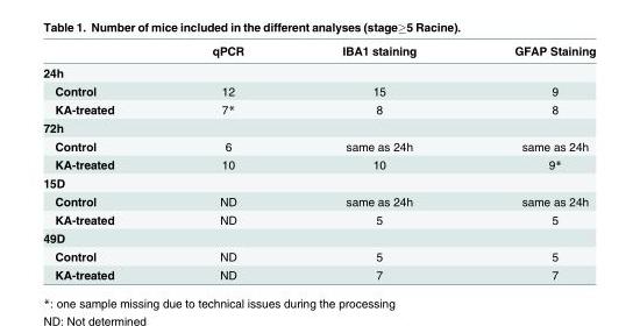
<table><thead><tr><td></td><td>qPCR</td><td>IBA1 staining</td><td>GFAP Staining</td></tr></thead><tbody><tr><td colspan="4">24h</td></tr><tr><td>Control</td><td>12</td><td>15</td><td>9</td></tr><tr><td>KA-treated</td><td>7*</td><td>8</td><td>8</td></tr><tr><td colspan="4">72h</td></tr><tr><td>Control</td><td>6</td><td>same as 24h</td><td>same as 24h</td></tr><tr><td>KA-treated</td><td>10</td><td>10</td><td>9*</td></tr><tr><td colspan="4">15D</td></tr><tr><td>Control</td><td>ND</td><td>same as 24h</td><td>same as 24h</td></tr><tr><td>KA-treated</td><td>ND</td><td>5</td><td>5</td></tr><tr><td colspan="4">49D</td></tr><tr><td>Control</td><td>ND</td><td>5</td><td>5</td></tr><tr><td>KA-treated</td><td>ND</td><td>7</td><td>7</td></tr></tbody></table>